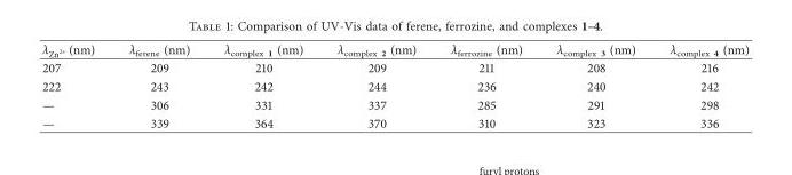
<table><thead><tr><td>λ<sub>Zn</sub><sup><sub>2+</sub></sup> (nm)</td><td>λ<sub>ferene</sub> (nm)</td><td>λ<sub>complex 1</sub> (nm)</td><td>λ<sub>complex 2</sub> (nm)</td><td>λ<sub>ferrozine</sub> (nm)</td><td>λ<sub>complex 3</sub> (nm)</td><td>λ<sub>complex 4</sub> (nm)</td></tr></thead><tbody><tr><td>207</td><td>209</td><td>210</td><td>209</td><td>211</td><td>208</td><td>216</td></tr><tr><td>222</td><td>243</td><td>242</td><td>244</td><td>236</td><td>240</td><td>242</td></tr><tr><td>—</td><td>306</td><td>331</td><td>337</td><td>285</td><td>291</td><td>298</td></tr><tr><td>—</td><td>339</td><td>364</td><td>370</td><td>310</td><td>323</td><td>336</td></tr></tbody></table>